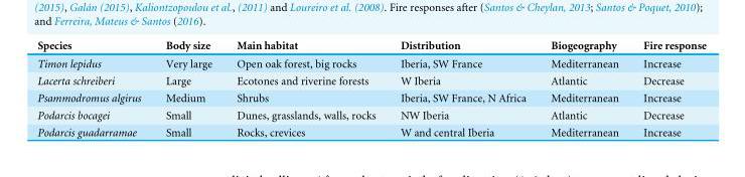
<table><thead><tr><td>Species</td><td>Body size</td><td>Main habitat</td><td>Distribution</td><td>Biogeography</td><td>Fire response</td></tr></thead><tbody><tr><td>Timon lepidus</td><td>Very large</td><td>Open oak forest, big rocks</td><td>Iberia, SW France</td><td>Mediterranean</td><td>Increase</td></tr><tr><td>Lacerta schreiberi</td><td>Large</td><td>Ecotones and riverine forests</td><td>W Iberia</td><td>Atlantic</td><td>Decrease</td></tr><tr><td>Psammodromus algirus</td><td>Medium</td><td>Shrubs</td><td>Iberia, SW France, N Africa</td><td>Mediterranean</td><td>Increase</td></tr><tr><td>Podarcis bocagei</td><td>Small</td><td>Dunes, grasslands, walls, rocks</td><td>NW Iberia</td><td>Atlantic</td><td>Decrease</td></tr><tr><td>Podarcis guadarramae</td><td>Small</td><td>Rocks, crevices</td><td>W and central Iberia</td><td>Mediterranean</td><td>Increase</td></tr></tbody></table>